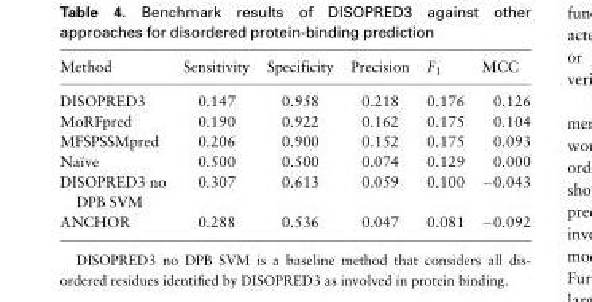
<table><thead><tr><td>Method</td><td>Sensitivity</td><td>Specificity</td><td>Precision</td><td>F<sub>1</sub></td><td>MCC</td></tr></thead><tbody><tr><td>DISOPRED3</td><td>0.147</td><td>0.958</td><td>0.218</td><td>0.176</td><td>0.126</td></tr><tr><td>MoRFpred</td><td>0.190</td><td>0.922</td><td>0.162</td><td>0.175</td><td>0.104</td></tr><tr><td>MFSPSSMpred</td><td>0.206</td><td>0.900</td><td>0.152</td><td>0.175</td><td>0.093</td></tr><tr><td>Naı¨ve</td><td>0.500</td><td>0.500</td><td>0.074</td><td>0.129</td><td>0.000</td></tr><tr><td>DISOPRED3 no DPB SVM</td><td>0.307</td><td>0.613</td><td>0.059</td><td>0.100</td><td>−0.043</td></tr><tr><td>ANCHOR</td><td>0.288</td><td>0.536</td><td>0.047</td><td>0.081</td><td>−0.092</td></tr></tbody></table>